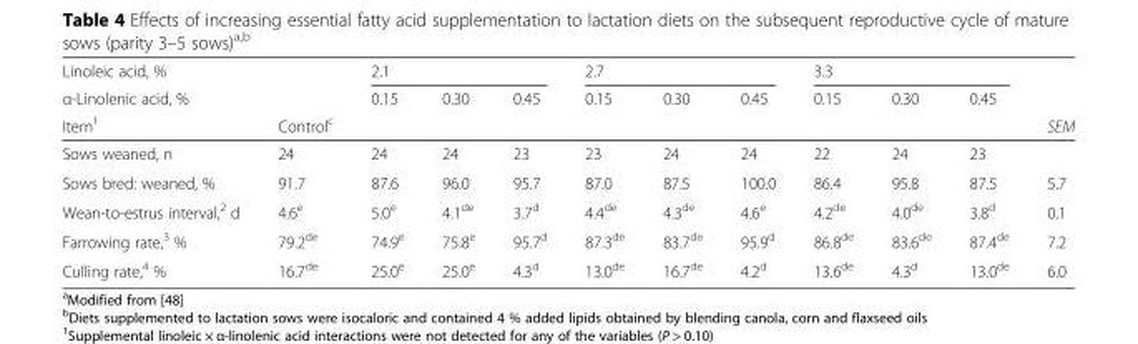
<table><thead><tr><td rowspan="3">Linoleic acid, % α-Linolenic acid, % Item<sup>1</sup></td><td rowspan="3">Control<sup>c</sup></td><td colspan="3">2.1</td><td colspan="3">2.7</td><td colspan="3">3.3</td><td rowspan="3">SEM</td></tr><tr><td rowspan="2">0.15</td><td rowspan="2">0.30</td><td rowspan="2">0.45</td><td rowspan="2">0.15</td><td rowspan="2">0.30</td><td rowspan="2">0.45</td><td rowspan="2">0.15</td><td rowspan="2">0.30</td><td rowspan="2">0.45</td></tr><tr></tr></thead><tbody><tr><td>Sows weaned, n</td><td>24</td><td>24</td><td>24</td><td>23</td><td>23</td><td>24</td><td>24</td><td>22</td><td>24</td><td>23</td><td></td></tr><tr><td>Sows bred: weaned, %</td><td>91.7</td><td>87.6</td><td>96.0</td><td>95.7</td><td>87.0</td><td>87.5</td><td>100.0</td><td>86.4</td><td>95.8</td><td>87.5</td><td>5.7</td></tr><tr><td>Wean-to-estrus interval,<sup>2</sup> d</td><td>4.6<sup>e</sup></td><td>5.0<sup>e</sup></td><td>4.1<sup>de</sup></td><td>3.7<sup>d</sup></td><td>4.4<sup>de</sup></td><td>4.3<sup>de</sup></td><td>4.6<sup>e</sup></td><td>4.2<sup>de</sup></td><td>4.0<sup>de</sup></td><td>3.8<sup>d</sup></td><td>0.1</td></tr><tr><td>Farrowing rate,<sup>3</sup> %</td><td>79.2<sup>de</sup></td><td>74.9<sup>e</sup></td><td>75.8<sup>e</sup></td><td>95.7<sup>d</sup></td><td>87.3<sup>de</sup></td><td>83.7<sup>de</sup></td><td>95.9<sup>d</sup></td><td>86.8<sup>de</sup></td><td>83.6<sup>de</sup></td><td>87.4<sup>de</sup></td><td>7.2</td></tr><tr><td>Culling rate,<sup>4</sup> %</td><td>16.7<sup>de</sup></td><td>25.0<sup>e</sup></td><td>25.0<sup>e</sup></td><td>4.3<sup>d</sup></td><td>13.0<sup>de</sup></td><td>16.7<sup>de</sup></td><td>4.2<sup>d</sup></td><td>13.6<sup>de</sup></td><td>4.3<sup>d</sup></td><td>13.0<sup>de</sup></td><td>6.0</td></tr></tbody></table>